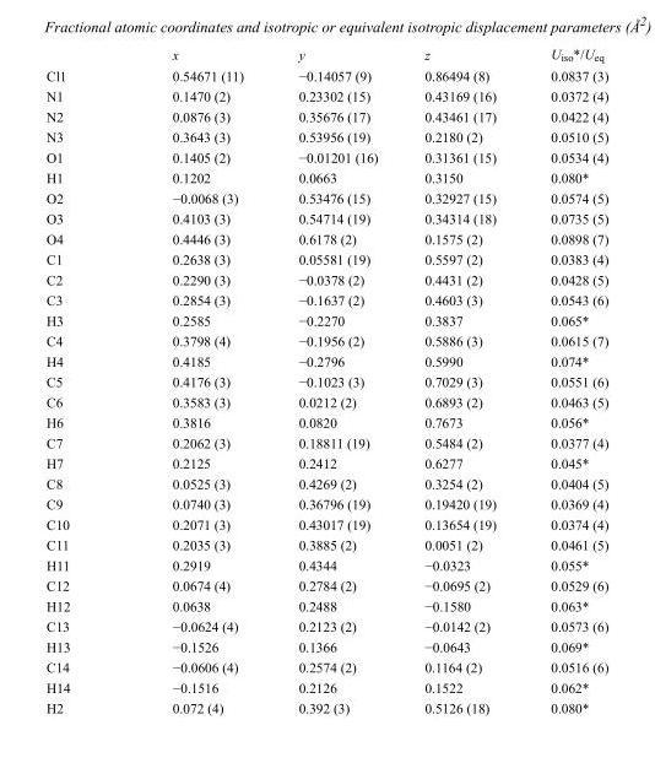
<table><thead><tr><td></td><td>x</td><td>y</td><td>z</td><td>U<sub>iso</sub>*/U<sub>eq</sub></td></tr></thead><tbody><tr><td>Cl1</td><td>0.54671 (11)</td><td>−0.14057 (9)</td><td>0.86494 (8)</td><td>0.0837 (3)</td></tr><tr><td>N1</td><td>0.1470 (2)</td><td>0.23302 (15)</td><td>0.43169 (16)</td><td>0.0372 (4)</td></tr><tr><td>N2</td><td>0.0876 (3)</td><td>0.35676 (17)</td><td>0.43461 (17)</td><td>0.0422 (4)</td></tr><tr><td>N3</td><td>0.3643 (3)</td><td>0.53956 (19)</td><td>0.2180 (2)</td><td>0.0510 (5)</td></tr><tr><td>O1</td><td>0.1405 (2)</td><td>−0.01201 (16)</td><td>0.31361 (15)</td><td>0.0534 (4)</td></tr><tr><td>H1</td><td>0.1202</td><td>0.0663</td><td>0.3150</td><td>0.080*</td></tr><tr><td>O2</td><td>−0.0068 (3)</td><td>0.53476 (15)</td><td>0.32927 (15)</td><td>0.0574 (5)</td></tr><tr><td>O3</td><td>0.4103 (3)</td><td>0.54714 (19)</td><td>0.34314 (18)</td><td>0.0735 (5)</td></tr><tr><td>O4</td><td>0.4446 (3)</td><td>0.6178 (2)</td><td>0.1575 (2)</td><td>0.0898 (7)</td></tr><tr><td>C1</td><td>0.2638 (3)</td><td>0.05581 (19)</td><td>0.5597 (2)</td><td>0.0383 (4)</td></tr><tr><td>C2</td><td>0.2290 (3)</td><td>−0.0378 (2)</td><td>0.4431 (2)</td><td>0.0428 (5)</td></tr><tr><td>C3</td><td>0.2854 (3)</td><td>−0.1637 (2)</td><td>0.4603 (3)</td><td>0.0543 (6)</td></tr><tr><td>H3</td><td>0.2585</td><td>−0.2270</td><td>0.3837</td><td>0.065*</td></tr><tr><td>C4</td><td>0.3798 (4)</td><td>−0.1956 (2)</td><td>0.5886 (3)</td><td>0.0615 (7)</td></tr><tr><td>H4</td><td>0.4185</td><td>−0.2796</td><td>0.5990</td><td>0.074*</td></tr><tr><td>C5</td><td>0.4176 (3)</td><td>−0.1023 (3)</td><td>0.7029 (3)</td><td>0.0551 (6)</td></tr><tr><td>C6</td><td>0.3583 (3)</td><td>0.0212 (2)</td><td>0.6893 (2)</td><td>0.0463 (5)</td></tr><tr><td>H6</td><td>0.3816</td><td>0.0820</td><td>0.7673</td><td>0.056*</td></tr><tr><td>C7</td><td>0.2062 (3)</td><td>0.18811 (19)</td><td>0.5484 (2)</td><td>0.0377 (4)</td></tr><tr><td>H7</td><td>0.2125</td><td>0.2412</td><td>0.6277</td><td>0.045*</td></tr><tr><td>C8</td><td>0.0525 (3)</td><td>0.4269 (2)</td><td>0.3254 (2)</td><td>0.0404 (5)</td></tr><tr><td>C9</td><td>0.0740 (3)</td><td>0.36796 (19)</td><td>0.19420 (19)</td><td>0.0369 (4)</td></tr><tr><td>C10</td><td>0.2071 (3)</td><td>0.43017 (19)</td><td>0.13654 (19)</td><td>0.0374 (4)</td></tr><tr><td>C11</td><td>0.2035 (3)</td><td>0.3885 (2)</td><td>0.0051 (2)</td><td>0.0461 (5)</td></tr><tr><td>H11</td><td>0.2919</td><td>0.4344</td><td>−0.0323</td><td>0.055*</td></tr><tr><td>C12</td><td>0.0674 (4)</td><td>0.2784 (2)</td><td>−0.0695 (2)</td><td>0.0529 (6)</td></tr><tr><td>H12</td><td>0.0638</td><td>0.2488</td><td>−0.1580</td><td>0.063*</td></tr><tr><td>C13</td><td>−0.0624 (4)</td><td>0.2123 (2)</td><td>−0.0142 (2)</td><td>0.0573 (6)</td></tr><tr><td>H13</td><td>−0.1526</td><td>0.1366</td><td>−0.0643</td><td>0.069*</td></tr><tr><td>C14</td><td>−0.0606 (4)</td><td>0.2574 (2)</td><td>0.1164 (2)</td><td>0.0516 (6)</td></tr><tr><td>H14</td><td>−0.1516</td><td>0.2126</td><td>0.1522</td><td>0.062*</td></tr><tr><td>H2</td><td>0.072 (4)</td><td>0.392 (3)</td><td>0.5126 (18)</td><td>0.080*</td></tr></tbody></table>